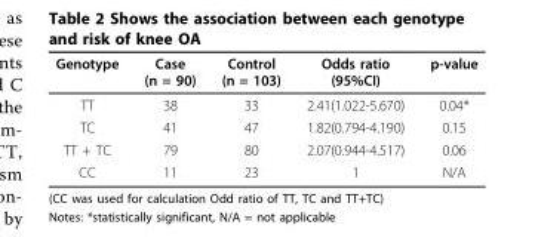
<table><thead><tr><td>Genotype</td><td>Case (n = 90)</td><td>Control (n = 103)</td><td>Odds ratio (95%CI)</td><td>p-value</td></tr></thead><tbody><tr><td>TT</td><td>38</td><td>33</td><td>2.41(1.022-5.670)</td><td>0.04*</td></tr><tr><td>TC</td><td>41</td><td>47</td><td>1.82(0.794-4.190)</td><td>0.15</td></tr><tr><td>TT + TC</td><td>79</td><td>80</td><td>2.07(0.944-4.517)</td><td>0.06</td></tr><tr><td>CC</td><td>11</td><td>23</td><td>1</td><td>N/A</td></tr></tbody></table>